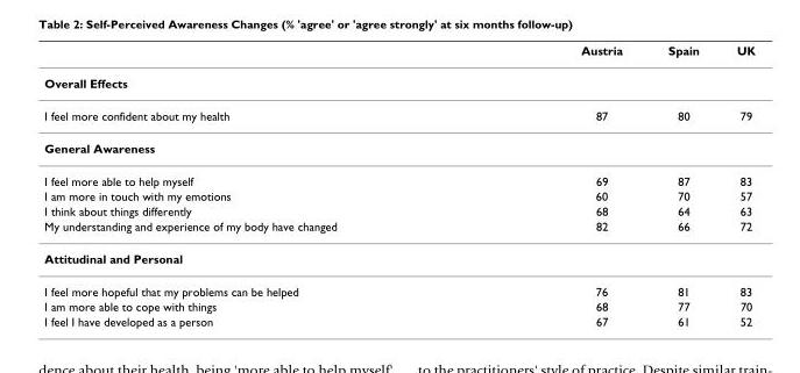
<table><thead><tr><td></td><td>Austria</td><td>Spain</td><td>UK</td></tr></thead><tbody><tr><td colspan="4">Overall Effects</td></tr><tr><td>I feel more confident about my health</td><td>87</td><td>80</td><td>79</td></tr><tr><td colspan="4">General Awareness</td></tr><tr><td>I feel more able to help myself</td><td>69</td><td>87</td><td>83</td></tr><tr><td>I am more in touch with my emotions</td><td>60</td><td>70</td><td>57</td></tr><tr><td>I think about things differently</td><td>68</td><td>64</td><td>63</td></tr><tr><td>My understanding and experience of my body have changed</td><td>82</td><td>66</td><td>72</td></tr><tr><td colspan="4">Attitudinal and Personal</td></tr><tr><td>I feel more hopeful that my problems can be helped</td><td>76</td><td>81</td><td>83</td></tr><tr><td>I am more able to cope with things</td><td>68</td><td>77</td><td>70</td></tr><tr><td>I feel I have developed as a person</td><td>67</td><td>61</td><td>52</td></tr></tbody></table>